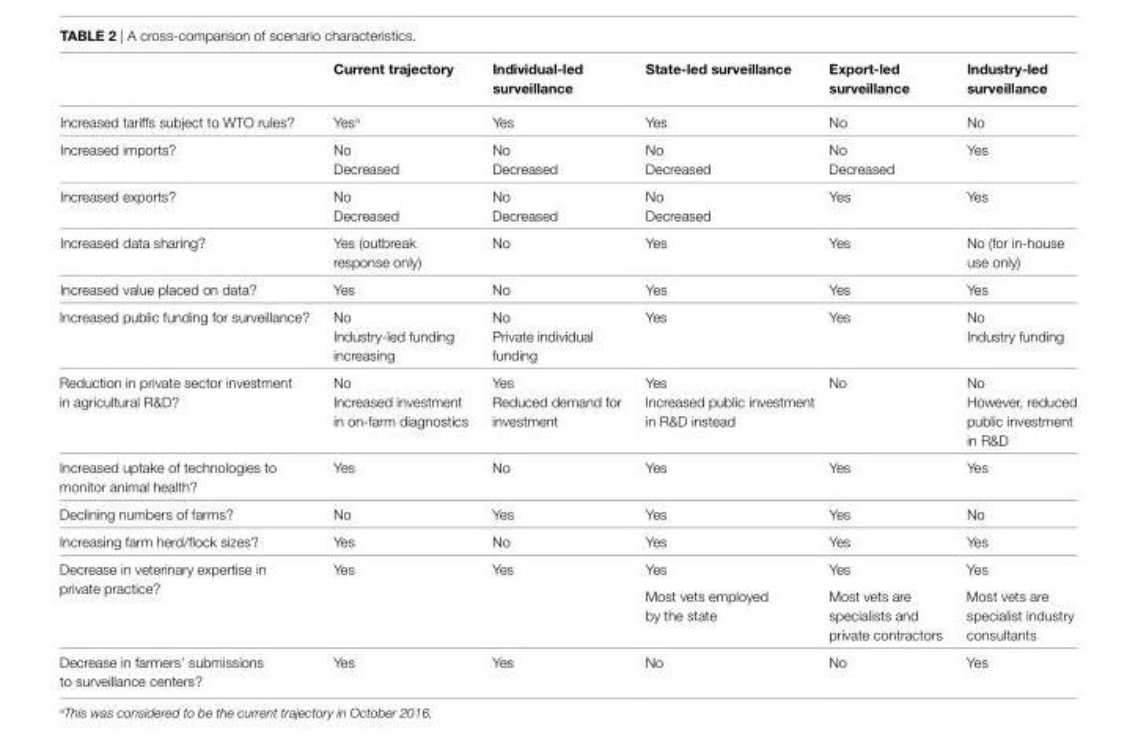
<table><thead><tr><td></td><td>current trajectory</td><td>individual-led surveillance</td><td>state-led surveillance</td><td>export-led surveillance</td><td>industry-led surveillance</td></tr></thead><tbody><tr><td>Increased tariffs subject to WTO rules?</td><td>Yes<sup>a</sup></td><td>Yes</td><td>Yes</td><td>No</td><td>No</td></tr><tr><td rowspan="2">Increased imports?</td><td>No</td><td>No</td><td>No</td><td>No</td><td rowspan="2">Yes</td></tr><tr><td>Decreased</td><td>Decreased</td><td>Decreased</td><td>Decreased</td></tr><tr><td rowspan="2">Increased exports?</td><td>No</td><td>No</td><td>No</td><td rowspan="2">Yes</td><td rowspan="2">Yes</td></tr><tr><td>Decreased</td><td>Decreased</td><td>Decreased</td></tr><tr><td>Increased data sharing?</td><td>Yes (outbreak response only)</td><td>No</td><td>Yes</td><td>Yes</td><td>No (for in-house use only)</td></tr><tr><td>Increased value placed on data?</td><td>Yes</td><td>No</td><td>Yes</td><td>Yes</td><td>Yes</td></tr><tr><td rowspan="2">Increased public funding for surveillance?</td><td>No</td><td>No</td><td rowspan="2">Yes</td><td rowspan="2">Yes</td><td>No</td></tr><tr><td>Industry-led funding increasing</td><td>Private individual funding</td><td>Industry funding</td></tr><tr><td rowspan="2">Reduction in private sector investment in agricultural R&amp;D?</td><td>No</td><td>Yes</td><td>Yes</td><td rowspan="2">No</td><td>No</td></tr><tr><td>Increased investment in on-farm diagnostics</td><td>Reduced demand for investment</td><td>Increased public investment in R&amp;D instead</td><td>However, reduced public investment in R&amp;D</td></tr><tr><td>Increased uptake of technologies to monitor animal health?</td><td>Yes</td><td>No</td><td>Yes</td><td>Yes</td><td>Yes</td></tr><tr><td>Declining numbers of farms?</td><td>No</td><td>Yes</td><td>Yes</td><td>Yes</td><td>No</td></tr><tr><td>Increasing farm herd/flock sizes?</td><td>Yes</td><td>No</td><td>Yes</td><td>Yes</td><td>Yes</td></tr><tr><td rowspan="2">Decrease in veterinary expertise in private practice?</td><td rowspan="2">Yes</td><td rowspan="2">Yes</td><td>Yes</td><td>Yes</td><td>Yes</td></tr><tr><td>Most vets employed by the state</td><td>Most vets are specialists and private contractors</td><td>Most vets are specialist industry consultants</td></tr><tr><td>Decrease in farmers’ submissions to surveillance centers?</td><td>Yes</td><td>Yes</td><td>No</td><td>No</td><td>Yes</td></tr></tbody></table>